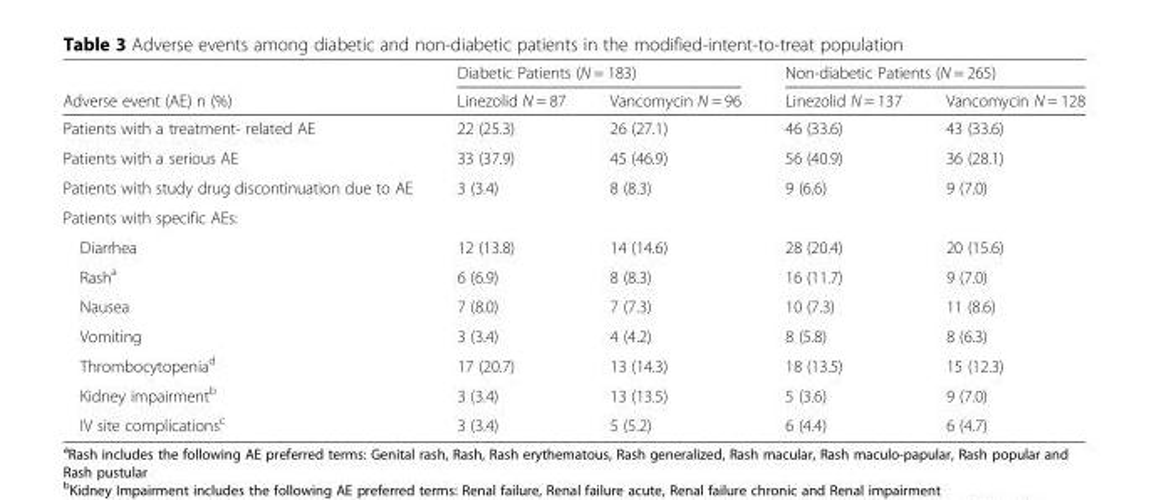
<table><thead><tr><td rowspan="2">Adverse event (AE) n (%)</td><td colspan="2">Diabetic Patients (N = 183)</td><td colspan="2">Non-diabetic Patients (N = 265)</td></tr><tr><td>Linezolid N = 87</td><td>Vancomycin N = 96</td><td>Linezolid N = 137</td><td>Vancomycin N = 128</td></tr></thead><tbody><tr><td>Patients with a treatment- related AE</td><td>22 (25.3)</td><td>26 (27.1)</td><td>46 (33.6)</td><td>43 (33.6)</td></tr><tr><td>Patients with a serious AE</td><td>33 (37.9)</td><td>45 (46.9)</td><td>56 (40.9)</td><td>36 (28.1)</td></tr><tr><td>Patients with study drug discontinuation due to AE</td><td>3 (3.4)</td><td>8 (8.3)</td><td>9 (6.6)</td><td>9 (7.0)</td></tr><tr><td colspan="5">Patients with specific AEs:</td></tr><tr><td>Diarrhea</td><td>12 (13.8)</td><td>14 (14.6)</td><td>28 (20.4)</td><td>20 (15.6)</td></tr><tr><td>Rash<sup>a</sup></td><td>6 (6.9)</td><td>8 (8.3)</td><td>16 (11.7)</td><td>9 (7.0)</td></tr><tr><td>Nausea</td><td>7 (8.0)</td><td>7 (7.3)</td><td>10 (7.3)</td><td>11 (8.6)</td></tr><tr><td>Vomiting</td><td>3 (3.4)</td><td>4 (4.2)</td><td>8 (5.8)</td><td>8 (6.3)</td></tr><tr><td>Thrombocytopenia<sup>d</sup></td><td>17 (20.7)</td><td>13 (14.3)</td><td>18 (13.5)</td><td>15 (12.3)</td></tr><tr><td>Kidney impairment<sup>b</sup></td><td>3 (3.4)</td><td>13 (13.5)</td><td>5 (3.6)</td><td>9 (7.0)</td></tr><tr><td>IV site complications<sup>c</sup></td><td>3 (3.4)</td><td>5 (5.2)</td><td>6 (4.4)</td><td>6 (4.7)</td></tr></tbody></table>